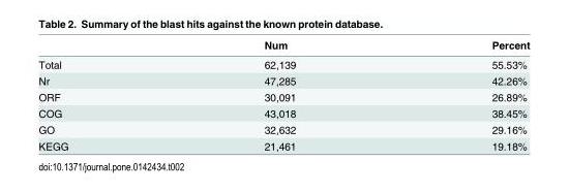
<table><thead><tr><td></td><td>Num</td><td>Percent</td></tr></thead><tbody><tr><td>Total</td><td>62,139</td><td>55.53%</td></tr><tr><td>Nr</td><td>47,285</td><td>42.26%</td></tr><tr><td>ORF</td><td>30,091</td><td>26.89%</td></tr><tr><td>COG</td><td>43,018</td><td>38.45%</td></tr><tr><td>GO</td><td>32,632</td><td>29.16%</td></tr><tr><td>KEGG</td><td>21,461</td><td>19.18%</td></tr></tbody></table>